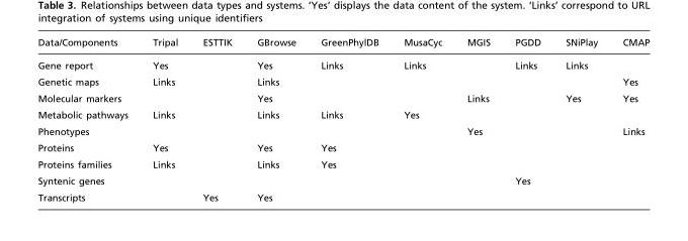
<table><thead><tr><td>Data/Components</td><td>Tripal</td><td>ESTTIK</td><td>GBrowse</td><td>GreenPhylDB</td><td>MusaCyc</td><td>MGIS</td><td>PGDD</td><td>SNiPlay</td><td>CMAP</td></tr></thead><tbody><tr><td>Gene report</td><td>Yes</td><td></td><td>Yes</td><td>Links</td><td>Links</td><td></td><td>Links</td><td>Links</td><td></td></tr><tr><td>Genetic maps</td><td>Links</td><td></td><td>Links</td><td></td><td></td><td></td><td></td><td></td><td>Yes</td></tr><tr><td>Molecular markers</td><td></td><td></td><td>Yes</td><td></td><td></td><td>Links</td><td></td><td>Yes</td><td>Yes</td></tr><tr><td>Metabolic pathways</td><td>Links</td><td></td><td>Links</td><td>Links</td><td>Yes</td><td></td><td></td><td></td><td></td></tr><tr><td>Phenotypes</td><td></td><td></td><td></td><td></td><td></td><td>Yes</td><td></td><td></td><td>Links</td></tr><tr><td>Proteins</td><td>Yes</td><td></td><td>Yes</td><td>Yes</td><td></td><td></td><td></td><td></td><td></td></tr><tr><td>Proteins families</td><td>Links</td><td></td><td>Links</td><td>Yes</td><td></td><td></td><td></td><td></td><td></td></tr><tr><td>Syntenic genes</td><td></td><td></td><td></td><td></td><td></td><td></td><td>Yes</td><td></td><td></td></tr><tr><td>Transcripts</td><td></td><td>Yes</td><td>Yes</td><td></td><td></td><td></td><td></td><td></td><td></td></tr></tbody></table>